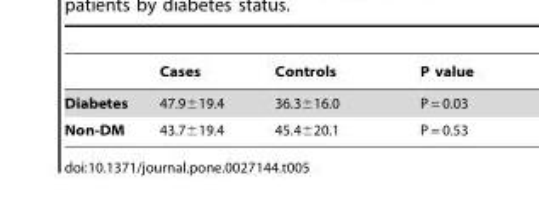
<table><thead><tr><td></td><td>Cases</td><td>Controls</td><td>P value</td></tr></thead><tbody><tr><td>Diabetes</td><td>47.9±19.4</td><td>36.3±16.0</td><td>P = 0.03</td></tr><tr><td>Non-DM</td><td>43.7±19.4</td><td>45.4±20.1</td><td>P = 0.53</td></tr></tbody></table>